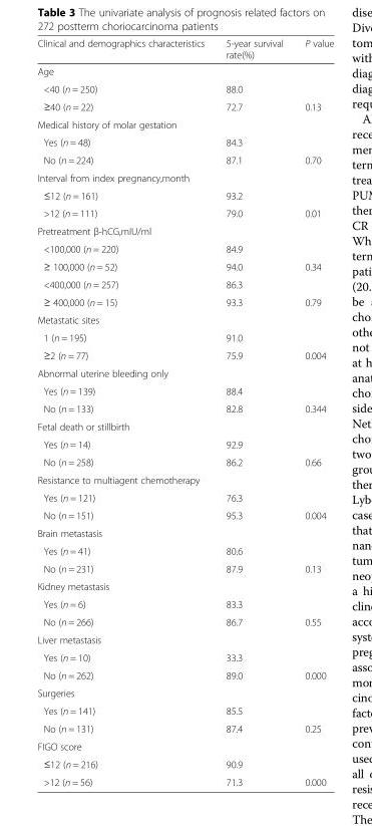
<table><thead><tr><td>Clinical and demographics characteristics</td><td>5-year survival rate(%)</td><td>P value</td></tr></thead><tbody><tr><td colspan="3">Age</td></tr><tr><td>&lt;40 (n = 250)</td><td>88.0</td><td></td></tr><tr><td>≥40 (n = 22)</td><td>72.7</td><td>0.13</td></tr><tr><td colspan="3">Medical history of molar gestation</td></tr><tr><td>Yes (n = 48)</td><td>84.3</td><td></td></tr><tr><td>No (n = 224)</td><td>87.1</td><td>0.70</td></tr><tr><td colspan="3">Interval from index pregnancy,month</td></tr><tr><td>≤12 (n = 161)</td><td>93.2</td><td></td></tr><tr><td>&gt;12 (n = 111)</td><td>79.0</td><td>0.01</td></tr><tr><td colspan="3">Pretreatment β-hCG,mIU/ml</td></tr><tr><td>&lt;100,000 (n = 220)</td><td>84.9</td><td></td></tr><tr><td>≥ 100,000 (n = 52)</td><td>94.0</td><td>0.34</td></tr><tr><td>&lt;400,000 (n = 257)</td><td>86.3</td><td></td></tr><tr><td>≥ 400,000 (n = 15)</td><td>93.3</td><td>0.79</td></tr><tr><td colspan="3">Metastatic sites</td></tr><tr><td>1 (n = 195)</td><td>91.0</td><td></td></tr><tr><td>≥2 (n = 77)</td><td>75.9</td><td>0.004</td></tr><tr><td colspan="3">Abnormal uterine bleeding only</td></tr><tr><td>Yes (n = 139)</td><td>88.4</td><td></td></tr><tr><td>No (n = 133)</td><td>82.8</td><td>0.344</td></tr><tr><td colspan="3">Fetal death or stillbirth</td></tr><tr><td>Yes (n = 14)</td><td>92.9</td><td></td></tr><tr><td>No (n = 258)</td><td>86.2</td><td>0.66</td></tr><tr><td colspan="3">Resistance to multiagent chemotherapy</td></tr><tr><td>Yes (n = 121)</td><td>76.3</td><td></td></tr><tr><td>No (n = 151)</td><td>95.3</td><td>0.004</td></tr><tr><td colspan="3">Brain metastasis</td></tr><tr><td>Yes (n = 41)</td><td>80.6</td><td></td></tr><tr><td>No (n = 231)</td><td>87.9</td><td>0.13</td></tr><tr><td colspan="3">Kidney metastasis</td></tr><tr><td>Yes (n = 6)</td><td>83.3</td><td></td></tr><tr><td>No (n = 266)</td><td>86.7</td><td>0.55</td></tr><tr><td colspan="3">Liver metastasis</td></tr><tr><td>Yes (n = 10)</td><td>33.3</td><td></td></tr><tr><td>No (n = 262)</td><td>89.0</td><td>0.000</td></tr><tr><td colspan="3">Surgeries</td></tr><tr><td>Yes (n = 141)</td><td>85.5</td><td></td></tr><tr><td>No (n = 131)</td><td>87.4</td><td>0.25</td></tr><tr><td colspan="3">FIGO score</td></tr><tr><td>≤12 (n = 216)</td><td>90.9</td><td></td></tr><tr><td>&gt;12 (n = 56)</td><td>71.3</td><td>0.000</td></tr></tbody></table>